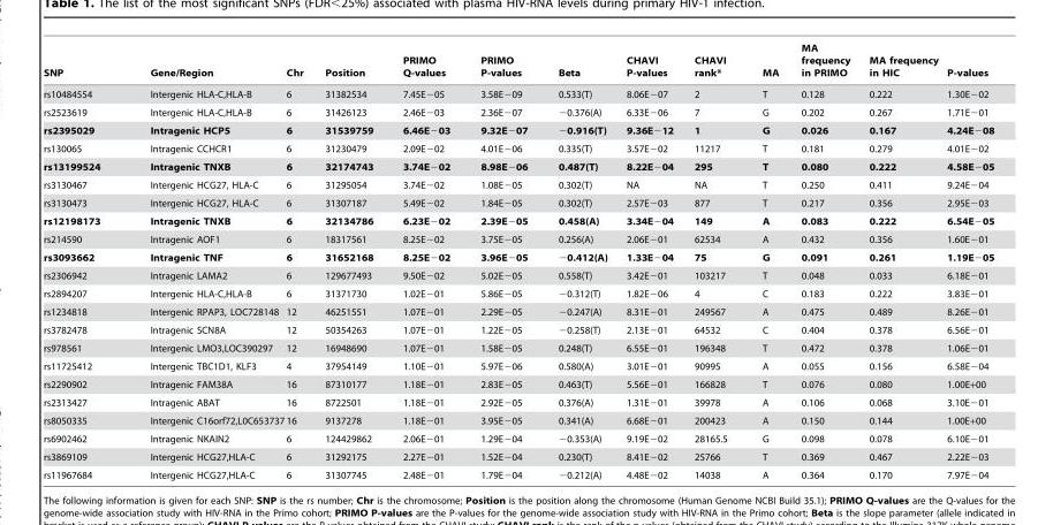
<table><thead><tr><td>SNP</td><td>Gene/Region</td><td>Chr</td><td>Position</td><td>PRIMO Q-values</td><td>PRIMO P-values</td><td>Beta</td><td>CHAVI P-values</td><td>CHAVI rank*</td><td>MA</td><td>MA frequency in PRIMO</td><td>MA frequency in HIC</td><td>P-values</td></tr></thead><tbody><tr><td>rs10484554</td><td>Intergenic HLA-C,HLA-B</td><td>6</td><td>31382534</td><td>7.45E−05</td><td>3.58E−09</td><td>0.533(T)</td><td>8.06E−07</td><td>2</td><td>T</td><td>0.128</td><td>0.222</td><td>1.30E−02</td></tr><tr><td>rs2523619</td><td>Intergenic HLA-C,HLA-B</td><td>6</td><td>31426123</td><td>2.46E−03</td><td>2.36E−07</td><td>−0.376(A)</td><td>6.33E−06</td><td>7</td><td>G</td><td>0.202</td><td>0.267</td><td>1.71E−01</td></tr><tr><td>rs2395029</td><td>Intragenic HCP5</td><td>6</td><td>31539759</td><td>6.46E−03</td><td>9.32E−07</td><td>−0.916(T)</td><td>9.36E−12</td><td>1</td><td>G</td><td>0.026</td><td>0.167</td><td>4.24E−08</td></tr><tr><td>rs130065</td><td>Intragenic CCHCR1</td><td>6</td><td>31230479</td><td>2.09E−02</td><td>4.01E−06</td><td>0.335(T)</td><td>3.57E−02</td><td>11217</td><td>T</td><td>0.181</td><td>0.279</td><td>4.01E−02</td></tr><tr><td>rs13199524</td><td>Intragenic TNXB</td><td>6</td><td>32174743</td><td>3.74E−02</td><td>8.98E−06</td><td>0.487(T)</td><td>8.22E−04</td><td>295</td><td>T</td><td>0.080</td><td>0.222</td><td>4.58E−05</td></tr><tr><td>rs3130467</td><td>Intergenic HCG27, HLA-C</td><td>6</td><td>31295054</td><td>3.74E−02</td><td>1.08E−05</td><td>0.302(T)</td><td>NA</td><td>NA</td><td>T</td><td>0.250</td><td>0.411</td><td>9.24E−04</td></tr><tr><td>rs3130473</td><td>Intergenic HCG27, HLA-C</td><td>6</td><td>31307187</td><td>5.49E−02</td><td>1.84E−05</td><td>0.302(T)</td><td>2.57E−03</td><td>877</td><td>T</td><td>0.217</td><td>0.356</td><td>2.95E−03</td></tr><tr><td>rs12198173</td><td>Intragenic TNXB</td><td>6</td><td>32134786</td><td>6.23E−02</td><td>2.39E−05</td><td>0.458(A)</td><td>3.34E−04</td><td>149</td><td>A</td><td>0.083</td><td>0.222</td><td>6.54E−05</td></tr><tr><td>rs214590</td><td>Intragenic AOF1</td><td>6</td><td>18317561</td><td>8.25E−02</td><td>3.75E−05</td><td>0.256(A)</td><td>2.06E−01</td><td>62534</td><td>A</td><td>0.432</td><td>0.356</td><td>1.60E−01</td></tr><tr><td>rs3093662</td><td>Intragenic TNF</td><td>6</td><td>31652168</td><td>8.25E−02</td><td>3.96E−05</td><td>−0.412(A)</td><td>1.33E−04</td><td>75</td><td>G</td><td>0.091</td><td>0.261</td><td>1.19E−05</td></tr><tr><td>rs2306942</td><td>Intragenic LAMA2</td><td>6</td><td>129677493</td><td>9.50E−02</td><td>5.02E−05</td><td>0.558(T)</td><td>3.42E−01</td><td>103217</td><td>T</td><td>0.048</td><td>0.033</td><td>6.18E−01</td></tr><tr><td>rs2894207</td><td>Intergenic HLA-C,HLA-B</td><td>6</td><td>31371730</td><td>1.02E−01</td><td>5.86E−05</td><td>−0.312(T)</td><td>1.82E−06</td><td>4</td><td>C</td><td>0.183</td><td>0.222</td><td>3.83E−01</td></tr><tr><td>rs1234818</td><td>Intergenic RPAP3, LOC728148</td><td>12</td><td>46251551</td><td>1.07E−01</td><td>2.29E−05</td><td>−0.247(A)</td><td>8.31E−01</td><td>249567</td><td>A</td><td>0.475</td><td>0.489</td><td>8.26E−01</td></tr><tr><td>rs3782478</td><td>Intragenic SCN8A</td><td>12</td><td>50354263</td><td>1.07E−01</td><td>1.22E−05</td><td>−0.258(T)</td><td>2.13E−01</td><td>64532</td><td>C</td><td>0.404</td><td>0.378</td><td>6.56E−01</td></tr><tr><td>rs978561</td><td>Intergenic LMO3,LOC390297</td><td>12</td><td>16948690</td><td>1.07E−01</td><td>1.58E−05</td><td>0.248(T)</td><td>6.55E−01</td><td>196348</td><td>T</td><td>0.472</td><td>0.378</td><td>1.06E−01</td></tr><tr><td>rs11725412</td><td>Intergenic TBC1D1, KLF3</td><td>4</td><td>37954149</td><td>1.10E−01</td><td>5.97E−06</td><td>0.580(A)</td><td>3.01E−01</td><td>90995</td><td>A</td><td>0.055</td><td>0.156</td><td>6.58E−04</td></tr><tr><td>rs2290902</td><td>Intragenic FAM38A</td><td>16</td><td>87310177</td><td>1.18E−01</td><td>2.83E−05</td><td>0.463(T)</td><td>5.56E−01</td><td>166828</td><td>T</td><td>0.076</td><td>0.080</td><td>1.00E+00</td></tr><tr><td>rs2313427</td><td>Intragenic ABAT</td><td>16</td><td>8722501</td><td>1.18E−01</td><td>2.92E−05</td><td>0.376(A)</td><td>1.31E−01</td><td>39978</td><td>A</td><td>0.106</td><td>0.068</td><td>3.10E−01</td></tr><tr><td>rs8050335</td><td>Intergenic C16orf72,L0C653737</td><td>16</td><td>9137278</td><td>1.18E−01</td><td>3.95E−05</td><td>0.341(A)</td><td>6.68E−01</td><td>200423</td><td>A</td><td>0.150</td><td>0.144</td><td>1.00E+00</td></tr><tr><td>rs6902462</td><td>Intragenic NKAIN2</td><td>6</td><td>124429862</td><td>2.06E−01</td><td>1.29E−04</td><td>−0.353(A)</td><td>9.19E−02</td><td>28165.5</td><td>G</td><td>0.098</td><td>0.078</td><td>6.10E−01</td></tr><tr><td>rs3869109</td><td>Intergenic HCG27,HLA-C</td><td>6</td><td>31292175</td><td>2.27E−01</td><td>1.52E−04</td><td>0.230(T)</td><td>8.41E−02</td><td>25766</td><td>T</td><td>0.369</td><td>0.467</td><td>2.22E−03</td></tr><tr><td>rs11967684</td><td>Intergenic HCG27,HLA-C</td><td>6</td><td>31307745</td><td>2.48E−01</td><td>1.79E−04</td><td>−0.212(A)</td><td>4.48E−02</td><td>14038</td><td>A</td><td>0.364</td><td>0.170</td><td>7.97E−04</td></tr></tbody></table>